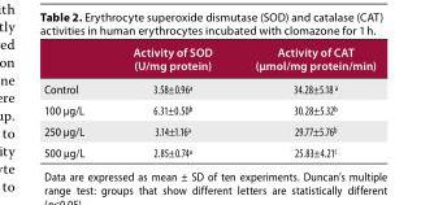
<table><thead><tr><td></td><td>Activity of SOD (U/mg protein)</td><td>Activity of CAT (μmol/mg protein/min)</td></tr></thead><tbody><tr><td>Control</td><td>3.58±0.96<sup>ª</sup></td><td>34.28±5.18 <sup>a</sup></td></tr><tr><td>100 μg/L</td><td>6.31±0.50<sup>b</sup></td><td>30.28±5.32<sup>b</sup></td></tr><tr><td>250 μg/L</td><td>3.14±1.16<sup>ª</sup></td><td>29.77±5.76<sup>b</sup></td></tr><tr><td>500 μg/L</td><td>2.85±0.74<sup>ª</sup></td><td>25.83±4.21<sup>c</sup></td></tr></tbody></table>